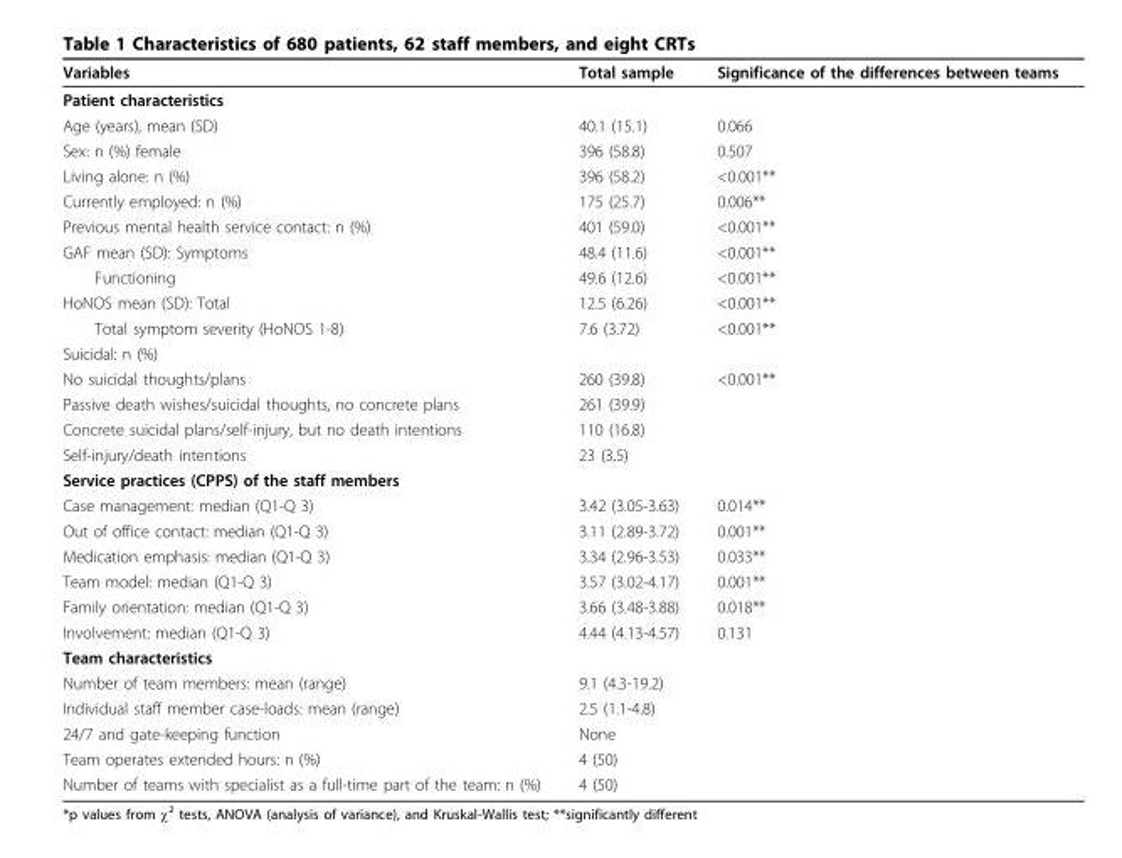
<table><thead><tr><td>Variables</td><td>Total sample</td><td>Significance of the differences between teams</td></tr></thead><tbody><tr><td colspan="3">Patient characteristics</td></tr><tr><td>Age (years), mean (SD)</td><td>40.1 (15.1)</td><td>0.066</td></tr><tr><td>Sex: n (%) female</td><td>396 (58.8)</td><td>0.507</td></tr><tr><td>Living alone: n (%)</td><td>396 (58.2)</td><td>&lt;0.001**</td></tr><tr><td>Currently employed: n (%)</td><td>175 (25.7)</td><td>0.006**</td></tr><tr><td>Previous mental health service contact: n (%)</td><td>401 (59.0)</td><td>&lt;0.001**</td></tr><tr><td>GAF mean (SD): Symptoms</td><td>48.4 (11.6)</td><td>&lt;0.001**</td></tr><tr><td>Functioning</td><td>49.6 (12.6)</td><td>&lt;0.001**</td></tr><tr><td>HoNOS mean (SD): Total</td><td>12.5 (6.26)</td><td>&lt;0.001**</td></tr><tr><td>Total symptom severity (HoNOS 1-8)</td><td>7.6 (3.72)</td><td>&lt;0.001**</td></tr><tr><td colspan="3">Suicidal: n (%)</td></tr><tr><td>No suicidal thoughts/plans</td><td>260 (39.8)</td><td>&lt;0.001**</td></tr><tr><td>Passive death wishes/suicidal thoughts, no concrete plans</td><td>261 (39.9)</td><td></td></tr><tr><td>Concrete suicidal plans/self-injury, but no death intentions</td><td>110 (16.8)</td><td></td></tr><tr><td>Self-injury/death intentions</td><td>23 (3.5)</td><td></td></tr><tr><td colspan="3">Service practices (CPPS) of the staff members</td></tr><tr><td>Case management: median (Q1-Q 3)</td><td>3.42 (3.05-3.63)</td><td>0.014**</td></tr><tr><td>Out of office contact: median (Q1-Q 3)</td><td>3.11 (2.89-3.72)</td><td>0.001**</td></tr><tr><td>Medication emphasis: median (Q1-Q 3)</td><td>3.34 (2.96-3.53)</td><td>0.033**</td></tr><tr><td>Team model: median (Q1-Q 3)</td><td>3.57 (3.02-4.17)</td><td>0.001**</td></tr><tr><td>Family orientation: median (Q1-Q 3)</td><td>3.66 (3.48-3.88)</td><td>0.018**</td></tr><tr><td>Involvement: median (Q1-Q 3)</td><td>4.44 (4.13-4.57)</td><td>0.131</td></tr><tr><td colspan="3">Team characteristics</td></tr><tr><td>Number of team members: mean (range)</td><td>9.1 (4.3-19.2)</td><td></td></tr><tr><td>Individual staff member case-loads: mean (range)</td><td>2.5 (1.1-4.8)</td><td></td></tr><tr><td>24/7 and gate-keeping function</td><td>None</td><td></td></tr><tr><td>Team operates extended hours: n (%)</td><td>4 (50)</td><td></td></tr><tr><td>Number of teams with specialist as a full-time part of the team: n (%)</td><td>4 (50)</td><td></td></tr></tbody></table>